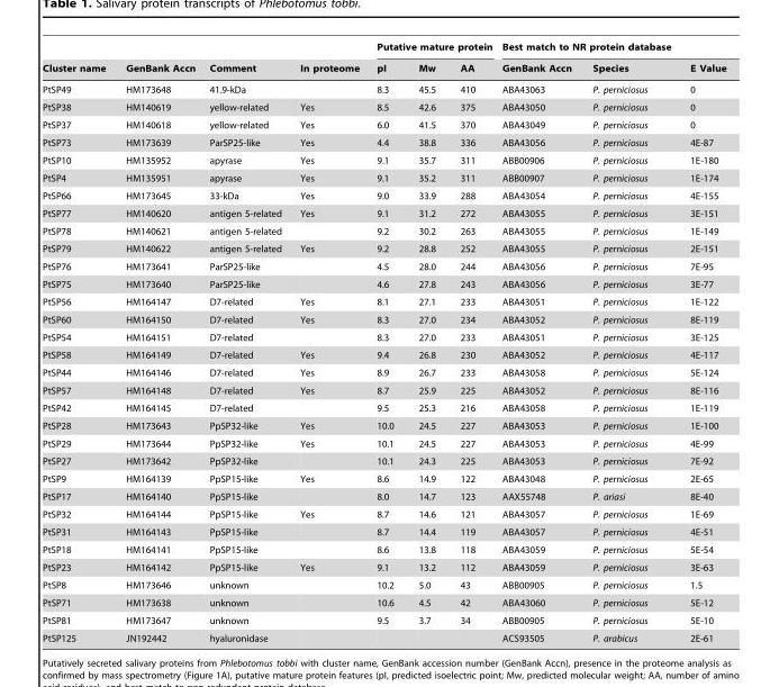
<table><thead><tr><td rowspan="2">Cluster name</td><td rowspan="2">GenBank Accn</td><td rowspan="2">Comment</td><td rowspan="2">In proteome</td><td colspan="3">Putative mature protein</td><td colspan="3">Best match to NR protein database</td></tr><tr><td>pI</td><td>Mw</td><td>AA</td><td>GenBank Accn</td><td>Species</td><td>E Value</td></tr></thead><tbody><tr><td>PtSP49</td><td>HM173648</td><td>41.9-kDa</td><td></td><td>8.3</td><td>45.5</td><td>410</td><td>ABA43063</td><td>P. perniciosus</td><td>0</td></tr><tr><td>PtSP38</td><td>HM140619</td><td>yellow-related</td><td>Yes</td><td>8.5</td><td>42.6</td><td>375</td><td>ABA43050</td><td>P. perniciosus</td><td>0</td></tr><tr><td>PtSP37</td><td>HM140618</td><td>yellow-related</td><td>Yes</td><td>6.0</td><td>41.5</td><td>370</td><td>ABA43049</td><td>P. perniciosus</td><td>0</td></tr><tr><td>PtSP73</td><td>HM173639</td><td>ParSP25-like</td><td>Yes</td><td>4.4</td><td>38.8</td><td>336</td><td>ABA43056</td><td>P. perniciosus</td><td>4E-87</td></tr><tr><td>PtSP10</td><td>HM135952</td><td>apyrase</td><td>Yes</td><td>9.1</td><td>35.7</td><td>311</td><td>ABB00906</td><td>P. perniciosus</td><td>1E-180</td></tr><tr><td>PtSP4</td><td>HM135951</td><td>apyrase</td><td>Yes</td><td>9.1</td><td>35.2</td><td>311</td><td>ABB00907</td><td>P. perniciosus</td><td>1E-174</td></tr><tr><td>PtSP66</td><td>HM173645</td><td>33-kDa</td><td>Yes</td><td>9.0</td><td>33.9</td><td>288</td><td>ABA43054</td><td>P. perniciosus</td><td>4E-155</td></tr><tr><td>PtSP77</td><td>HM140620</td><td>antigen 5-related</td><td>Yes</td><td>9.1</td><td>31.2</td><td>272</td><td>ABA43055</td><td>P. perniciosus</td><td>3E-151</td></tr><tr><td>PtSP78</td><td>HM140621</td><td>antigen 5-related</td><td></td><td>9.2</td><td>30.2</td><td>263</td><td>ABA43055</td><td>P. perniciosus</td><td>1E-149</td></tr><tr><td>PtSP79</td><td>HM140622</td><td>antigen 5-related</td><td>Yes</td><td>9.2</td><td>28.8</td><td>252</td><td>ABA43055</td><td>P. perniciosus</td><td>2E-151</td></tr><tr><td>PtSP76</td><td>HM173641</td><td>ParSP25-like</td><td></td><td>4.5</td><td>28.0</td><td>244</td><td>ABA43056</td><td>P. perniciosus</td><td>7E-95</td></tr><tr><td>PtSP75</td><td>HM173640</td><td>ParSP25-like</td><td></td><td>4.6</td><td>27.8</td><td>243</td><td>ABA43056</td><td>P. perniciosus</td><td>3E-77</td></tr><tr><td>PtSP56</td><td>HM164147</td><td>D7-related</td><td>Yes</td><td>8.1</td><td>27.1</td><td>233</td><td>ABA43051</td><td>P. perniciosus</td><td>1E-122</td></tr><tr><td>PtSP60</td><td>HM164150</td><td>D7-related</td><td>Yes</td><td>8.3</td><td>27.0</td><td>234</td><td>ABA43052</td><td>P. perniciosus</td><td>8E-119</td></tr><tr><td>PtSP54</td><td>HM164151</td><td>D7-related</td><td></td><td>8.3</td><td>27.0</td><td>233</td><td>ABA43051</td><td>P. perniciosus</td><td>3E-125</td></tr><tr><td>PtSP58</td><td>HM164149</td><td>D7-related</td><td>Yes</td><td>9.4</td><td>26.8</td><td>230</td><td>ABA43052</td><td>P. perniciosus</td><td>4E-117</td></tr><tr><td>PtSP44</td><td>HM164146</td><td>D7-related</td><td>Yes</td><td>8.9</td><td>26.7</td><td>233</td><td>ABA43058</td><td>P. perniciosus</td><td>5E-124</td></tr><tr><td>PtSP57</td><td>HM164148</td><td>D7-related</td><td>Yes</td><td>8.7</td><td>25.9</td><td>225</td><td>ABA43052</td><td>P. perniciosus</td><td>8E-116</td></tr><tr><td>PtSP42</td><td>HM164145</td><td>D7-related</td><td></td><td>9.5</td><td>25.3</td><td>216</td><td>ABA43058</td><td>P. perniciosus</td><td>1E-119</td></tr><tr><td>PtSP28</td><td>HM173643</td><td>PpSP32-like</td><td>Yes</td><td>10.0</td><td>24.5</td><td>227</td><td>ABA43053</td><td>P. perniciosus</td><td>1E-100</td></tr><tr><td>PtSP29</td><td>HM173644</td><td>PpSP32-like</td><td>Yes</td><td>10.1</td><td>24.5</td><td>227</td><td>ABA43053</td><td>P. perniciosus</td><td>4E-99</td></tr><tr><td>PtSP27</td><td>HM173642</td><td>PpSP32-like</td><td></td><td>10.1</td><td>24.3</td><td>225</td><td>ABA43053</td><td>P. perniciosus</td><td>7E-92</td></tr><tr><td>PtSP9</td><td>HM164139</td><td>PpSP15-like</td><td>Yes</td><td>8.6</td><td>14.9</td><td>122</td><td>ABA43048</td><td>P. perniciosus</td><td>2E-65</td></tr><tr><td>PtSP17</td><td>HM164140</td><td>PpSP15-like</td><td></td><td>8.0</td><td>14.7</td><td>123</td><td>AAX55748</td><td>P. ariasi</td><td>8E-40</td></tr><tr><td>PtSP32</td><td>HM164144</td><td>PpSP15-like</td><td>Yes</td><td>8.7</td><td>14.6</td><td>121</td><td>ABA43057</td><td>P. perniciosus</td><td>1E-69</td></tr><tr><td>PtSP31</td><td>HM164143</td><td>PpSP15-like</td><td></td><td>8.7</td><td>14.4</td><td>119</td><td>ABA43057</td><td>P. perniciosus</td><td>4E-51</td></tr><tr><td>PtSP18</td><td>HM164141</td><td>PpSP15-like</td><td></td><td>8.6</td><td>13.8</td><td>118</td><td>ABA43059</td><td>P. perniciosus</td><td>5E-54</td></tr><tr><td>PtSP23</td><td>HM164142</td><td>PpSP15-like</td><td>Yes</td><td>9.1</td><td>13.2</td><td>112</td><td>ABA43059</td><td>P. perniciosus</td><td>3E-63</td></tr><tr><td>PtSP8</td><td>HM173646</td><td>unknown</td><td></td><td>10.2</td><td>5.0</td><td>43</td><td>ABB00905</td><td>P. perniciosus</td><td>1.5</td></tr><tr><td>PtSP71</td><td>HM173638</td><td>unknown</td><td></td><td>10.6</td><td>4.5</td><td>42</td><td>ABA43060</td><td>P. perniciosus</td><td>5E-12</td></tr><tr><td>PtSP81</td><td>HM173647</td><td>unknown</td><td></td><td>9.5</td><td>3.7</td><td>34</td><td>ABB00905</td><td>P. perniciosus</td><td>5E-10</td></tr><tr><td>PtSP125</td><td>JN192442</td><td>hyaluronidase</td><td></td><td></td><td></td><td></td><td>ACS93505</td><td>P. arabicus</td><td>2E-61</td></tr></tbody></table>